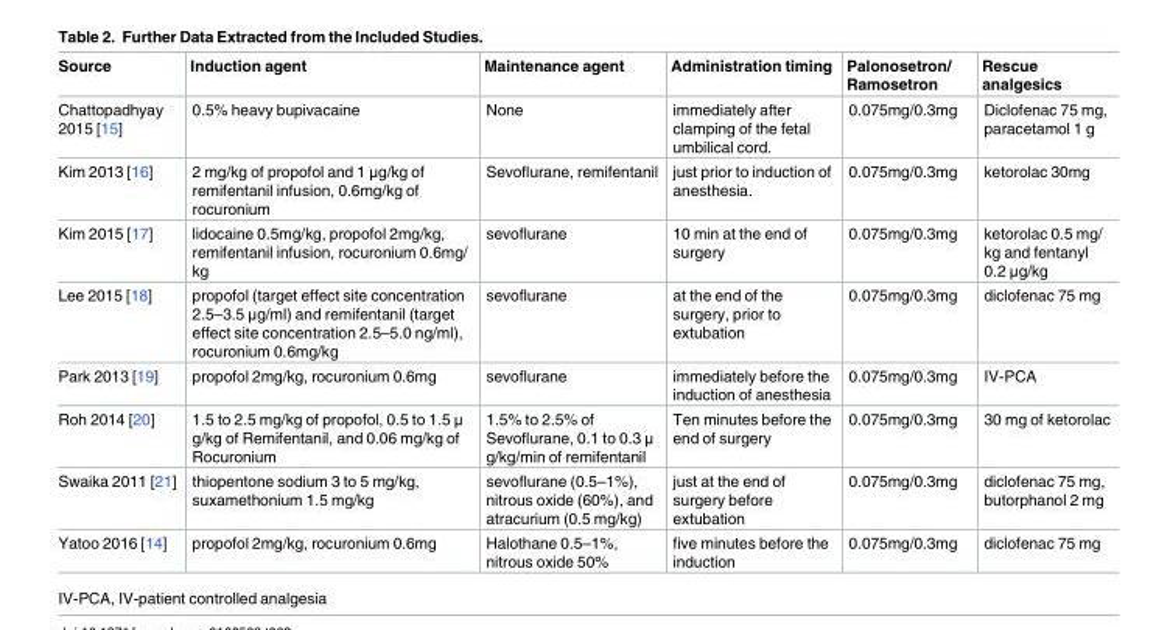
<table><thead><tr><td>Source</td><td>Induction agent</td><td>Maintenance agent</td><td>Administration timing</td><td>Palonosetron/ Ramosetron</td><td>Rescue analgesics</td></tr></thead><tbody><tr><td>Chattopadhyay 2015 [15]</td><td>0.5% heavy bupivacaine</td><td>None</td><td>immediately after clamping of the fetal umbilical cord.</td><td>0.075mg/0.3mg</td><td>Diclofenac 75 mg, paracetamol 1 g</td></tr><tr><td>Kim 2013 [16]</td><td>2 mg/kg of propofol and 1 μg/kg of remifentanil infusion, 0.6mg/kg of rocuronium</td><td>Sevoflurane, remifentanil</td><td>just prior to induction of anesthesia.</td><td>0.075mg/0.3mg</td><td>ketorolac 30mg</td></tr><tr><td>Kim 2015 [17]</td><td>lidocaine 0.5mg/kg, propofol 2mg/kg, remifentanil infusion, rocuronium 0.6mg/ kg</td><td>sevoflurane</td><td>10 min at the end of surgery</td><td>0.075mg/0.3mg</td><td>ketorolac 0.5 mg/ kg and fentanyl 0.2 μg/kg</td></tr><tr><td>Lee 2015 [18]</td><td>propofol (target effect site concentration 2.5–3.5 μg/ml) and remifentanil (target effect site concentration 2.5–5.0 ng/ml), rocuronium 0.6mg/kg</td><td>sevoflurane</td><td>at the end of the surgery, prior to extubation</td><td>0.075mg/0.3mg</td><td>diclofenac 75 mg</td></tr><tr><td>Park 2013 [19]</td><td>propofol 2mg/kg, rocuronium 0.6mg</td><td>sevoflurane</td><td>immediately before the induction of anesthesia</td><td>0.075mg/0.3mg</td><td>IV-PCA</td></tr><tr><td>Roh 2014 [20]</td><td>1.5 to 2.5 mg/kg of propofol, 0.5 to 1.5 μ g/kg of Remifentanil, and 0.06 mg/kg of Rocuronium</td><td>1.5% to 2.5% of Sevoflurane, 0.1 to 0.3 μ g/kg/min of remifentanil</td><td>Ten minutes before the end of surgery</td><td>0.075mg/0.3mg</td><td>30 mg of ketorolac</td></tr><tr><td>Swaika 2011 [21]</td><td>thiopentone sodium 3 to 5 mg/kg, suxamethonium 1.5 mg/kg</td><td>sevoflurane (0.5–1%), nitrous oxide (60%), and atracurium (0.5 mg/kg)</td><td>just at the end of surgery before extubation</td><td>0.075mg/0.3mg</td><td>diclofenac 75 mg, butorphanol 2 mg</td></tr><tr><td>Yatoo 2016 [14]</td><td>propofol 2mg/kg, rocuronium 0.6mg</td><td>Halothane 0.5–1%, nitrous oxide 50%</td><td>five minutes before the induction</td><td>0.075mg/0.3mg</td><td>diclofenac 75 mg</td></tr></tbody></table>